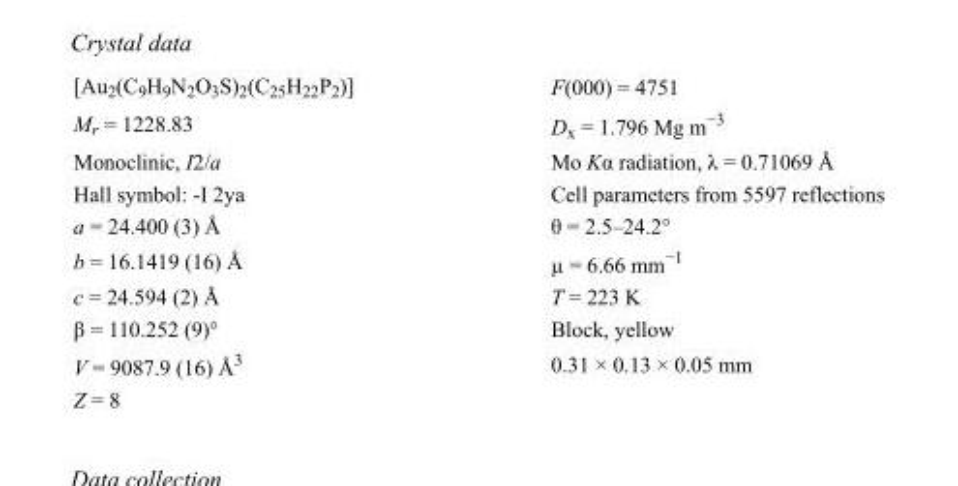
<table><tbody><tr><td>[Au<sub>2</sub>(C<sub>9</sub>H<sub>9</sub>N<sub>2</sub>O<sub>3</sub>S)<sub>2</sub>(C<sub>25</sub>H<sub>22</sub>P<sub>2</sub>)]</td><td>F(000) = 4751</td></tr><tr><td>M<sub>r</sub> = 1228.83</td><td>D<sub>x</sub> = 1.796 Mg m<sup>−3</sup></td></tr><tr><td>Monoclinic, I2/a</td><td>Mo Kα radiation, λ = 0.71069 Å</td></tr><tr><td>Hall symbol: -I 2ya</td><td>Cell parameters from 5597 reflections</td></tr><tr><td>a = 24.400 (3) Å</td><td>θ = 2.5–24.2°</td></tr><tr><td>b = 16.1419 (16) Å</td><td>µ = 6.66 mm<sup>−1</sup></td></tr><tr><td>c = 24.594 (2) Å</td><td>T = 223 K</td></tr><tr><td>β = 110.252 (9)°</td><td>Block, yellow</td></tr><tr><td>V = 9087.9 (16) Å<sup>3</sup></td><td>0.31 × 0.13 × 0.05 mm</td></tr><tr><td>Z = 8</td><td></td></tr></tbody></table>